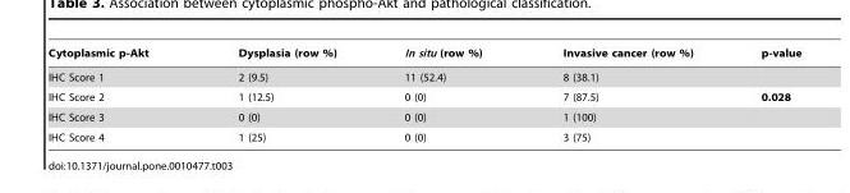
<table><thead><tr><td>Cytoplasmic p-Akt</td><td>Dysplasia (row %)</td><td>In situ (row %)</td><td>Invasive cancer (row %)</td><td>p-value</td></tr></thead><tbody><tr><td>IHC Score 1</td><td>2 (9.5)</td><td>11 (52.4)</td><td>8 (38.1)</td><td></td></tr><tr><td>IHC Score 2</td><td>1 (12.5)</td><td>0 (0)</td><td>7 (87.5)</td><td>0.028</td></tr><tr><td>IHC Score 3</td><td>0 (0)</td><td>0 (0)</td><td>1 (100)</td><td></td></tr><tr><td>IHC Score 4</td><td>1 (25)</td><td>0 (0)</td><td>3 (75)</td><td></td></tr></tbody></table>